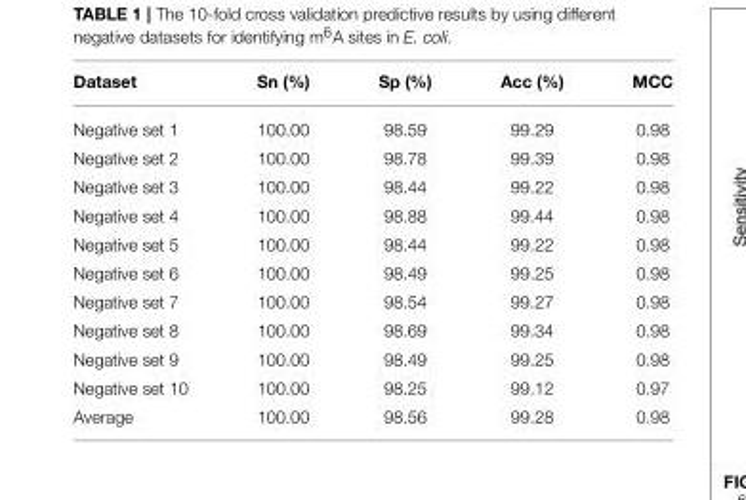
<table><thead><tr><td>Dataset</td><td>Sn (%)</td><td>Sp (%)</td><td>Acc (%)</td><td>MCC</td></tr></thead><tbody><tr><td>Negative set 1</td><td>100.00</td><td>98.59</td><td>99.29</td><td>0.98</td></tr><tr><td>Negative set 2</td><td>100.00</td><td>98.78</td><td>99.39</td><td>0.98</td></tr><tr><td>Negative set 3</td><td>100.00</td><td>98.44</td><td>99.22</td><td>0.98</td></tr><tr><td>Negative set 4</td><td>100.00</td><td>98.88</td><td>99.44</td><td>0.98</td></tr><tr><td>Negative set 5</td><td>100.00</td><td>98.44</td><td>99.22</td><td>0.98</td></tr><tr><td>Negative set 6</td><td>100.00</td><td>98.49</td><td>99.25</td><td>0.98</td></tr><tr><td>Negative set 7</td><td>100.00</td><td>98.54</td><td>99.27</td><td>0.98</td></tr><tr><td>Negative set 8</td><td>100.00</td><td>98.69</td><td>99.34</td><td>0.98</td></tr><tr><td>Negative set 9</td><td>100.00</td><td>98.49</td><td>99.25</td><td>0.98</td></tr><tr><td>Negative set 10</td><td>100.00</td><td>98.25</td><td>99.12</td><td>0.97</td></tr><tr><td>Average</td><td>100.00</td><td>98.56</td><td>99.28</td><td>0.98</td></tr></tbody></table>